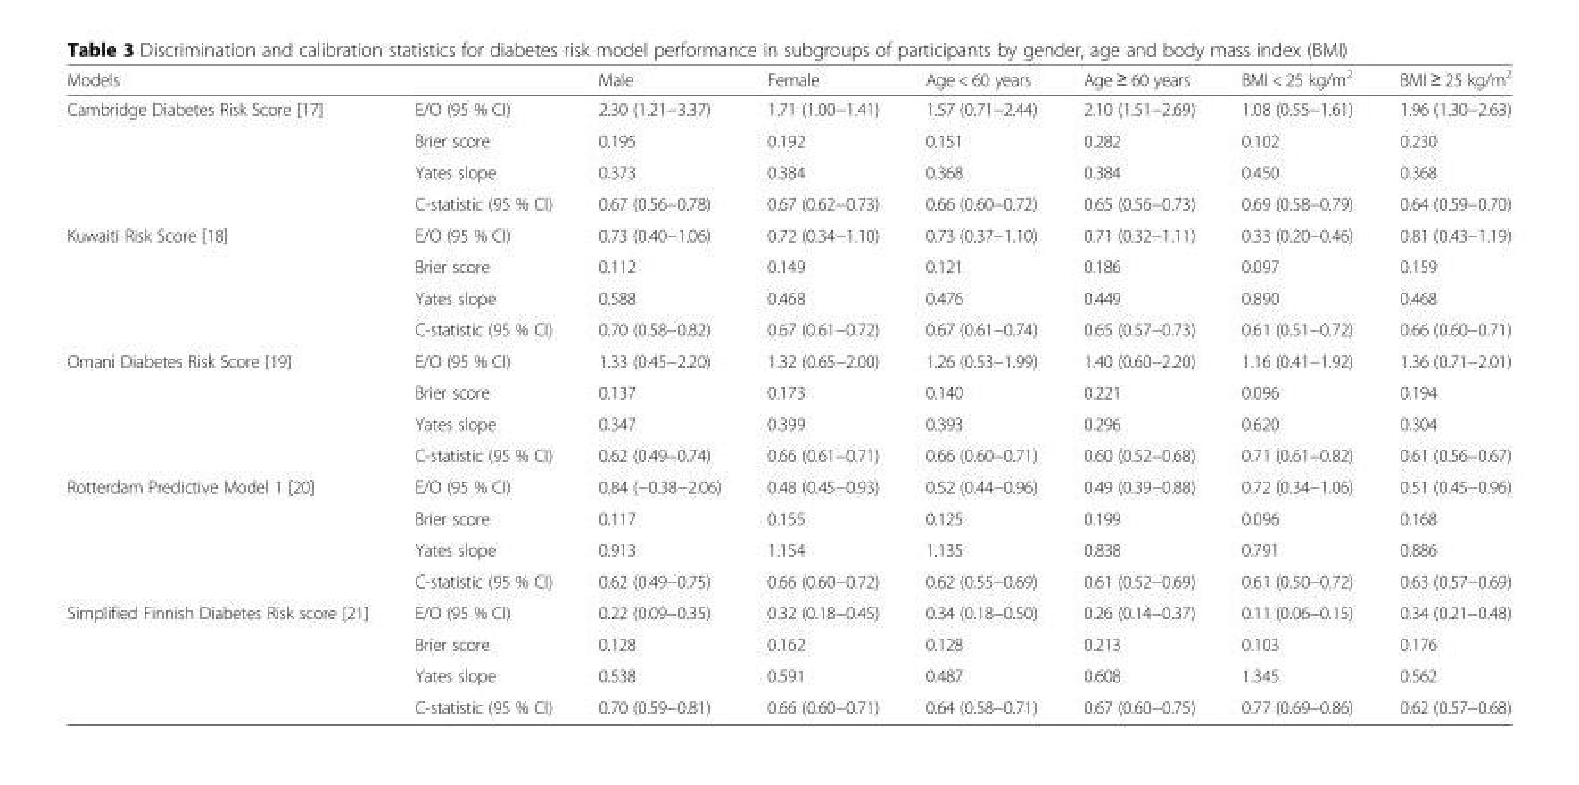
<table><thead><tr><td>Models</td><td></td><td>Male</td><td>Female</td><td>Age &lt; 60 years</td><td>Age ≥ 60 years</td><td>BMI &lt; 25 kg/m<sup>2</sup></td><td>BMI ≥ 25 kg/m<sup>2</sup></td></tr></thead><tbody><tr><td rowspan="4">Cambridge Diabetes Risk Score [17]</td><td>E/O (95 % CI)</td><td>2.30 (1.21−3.37)</td><td>1.71 (1.00−1.41)</td><td>1.57 (0.71−2.44)</td><td>2.10 (1.51−2.69)</td><td>1.08 (0.55−1.61)</td><td>1.96 (1.30−2.63)</td></tr><tr><td>Brier score</td><td>0.195</td><td>0.192</td><td>0.151</td><td>0.282</td><td>0.102</td><td>0.230</td></tr><tr><td>Yates slope</td><td>0.373</td><td>0.384</td><td>0.368</td><td>0.384</td><td>0.450</td><td>0.368</td></tr><tr><td>C-statistic (95 % CI)</td><td>0.67 (0.56−0.78)</td><td>0.67 (0.62−0.73)</td><td>0.66 (0.60−0.72)</td><td>0.65 (0.56−0.73)</td><td>0.69 (0.58−0.79)</td><td>0.64 (0.59−0.70)</td></tr><tr><td rowspan="4">Kuwaiti Risk Score [18]</td><td>E/O (95 % CI)</td><td>0.73 (0.40−1.06)</td><td>0.72 (0.34−1.10)</td><td>0.73 (0.37−1.10)</td><td>0.71 (0.32−1.11)</td><td>0.33 (0.20−0.46)</td><td>0.81 (0.43−1.19)</td></tr><tr><td>Brier score</td><td>0.112</td><td>0.149</td><td>0.121</td><td>0.186</td><td>0.097</td><td>0.159</td></tr><tr><td>Yates slope</td><td>0.588</td><td>0.468</td><td>0.476</td><td>0.449</td><td>0.890</td><td>0.468</td></tr><tr><td>C-statistic (95 % CI)</td><td>0.70 (0.58−0.82)</td><td>0.67 (0.61−0.72)</td><td>0.67 (0.61−0.74)</td><td>0.65 (0.57−0.73)</td><td>0.61 (0.51−0.72)</td><td>0.66 (0.60−0.71)</td></tr><tr><td rowspan="4">Omani Diabetes Risk Score [19]</td><td>E/O (95 % CI)</td><td>1.33 (0.45−2.20)</td><td>1.32 (0.65−2.00)</td><td>1.26 (0.53−1.99)</td><td>1.40 (0.60−2.20)</td><td>1.16 (0.41−1.92)</td><td>1.36 (0.71−2.01)</td></tr><tr><td>Brier score</td><td>0.137</td><td>0.173</td><td>0.140</td><td>0.221</td><td>0.096</td><td>0.194</td></tr><tr><td>Yates slope</td><td>0.347</td><td>0.399</td><td>0.393</td><td>0.296</td><td>0.620</td><td>0.304</td></tr><tr><td>C-statistic (95 % CI)</td><td>0.62 (0.49−0.74)</td><td>0.66 (0.61−0.71)</td><td>0.66 (0.60−0.71)</td><td>0.60 (0.52−0.68)</td><td>0.71 (0.61−0.82)</td><td>0.61 (0.56−0.67)</td></tr><tr><td rowspan="4">Rotterdam Predictive Model 1 [20]</td><td>E/O (95 % CI)</td><td>0.84 (−0.38−2.06)</td><td>0.48 (0.45−0.93)</td><td>0.52 (0.44−0.96)</td><td>0.49 (0.39−0.88)</td><td>0.72 (0.34−1.06)</td><td>0.51 (0.45−0.96)</td></tr><tr><td>Brier score</td><td>0.117</td><td>0.155</td><td>0.125</td><td>0.199</td><td>0.096</td><td>0.168</td></tr><tr><td>Yates slope</td><td>0.913</td><td>1.154</td><td>1.135</td><td>0.838</td><td>0.791</td><td>0.886</td></tr><tr><td>C-statistic (95 % CI)</td><td>0.62 (0.49−0.75)</td><td>0.66 (0.60−0.72)</td><td>0.62 (0.55−0.69)</td><td>0.61 (0.52−0.69)</td><td>0.61 (0.50−0.72)</td><td>0.63 (0.57−0.69)</td></tr><tr><td rowspan="4">Simplified Finnish Diabetes Risk score [21]</td><td>E/O (95 % CI)</td><td>0.22 (0.09−0.35)</td><td>0.32 (0.18−0.45)</td><td>0.34 (0.18−0.50)</td><td>0.26 (0.14−0.37)</td><td>0.11 (0.06−0.15)</td><td>0.34 (0.21−0.48)</td></tr><tr><td>Brier score</td><td>0.128</td><td>0.162</td><td>0.128</td><td>0.213</td><td>0.103</td><td>0.176</td></tr><tr><td>Yates slope</td><td>0.538</td><td>0.591</td><td>0.487</td><td>0.608</td><td>1.345</td><td>0.562</td></tr><tr><td>C-statistic (95 % CI)</td><td>0.70 (0.59−0.81)</td><td>0.66 (0.60−0.71)</td><td>0.64 (0.58−0.71)</td><td>0.67 (0.60−0.75)</td><td>0.77 (0.69−0.86)</td><td>0.62 (0.57−0.68)</td></tr></tbody></table>